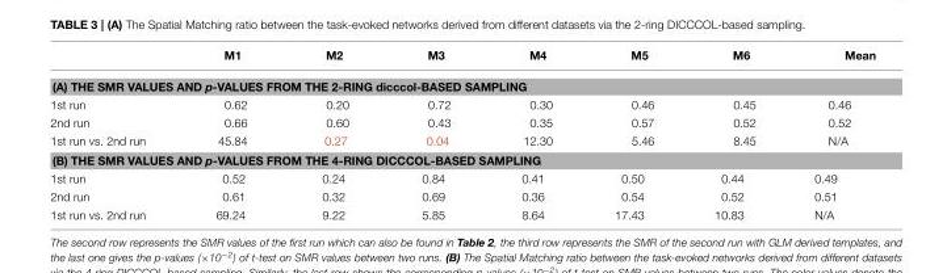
<table><thead><tr><td></td><td>M1</td><td>M2</td><td>M3</td><td>M4</td><td>M5</td><td>M6</td><td>Mean</td></tr></thead><tbody><tr><td colspan="8">(A) THE SMR VALUES AND p-VALUES FROM THE 2-RING dicccol-BASED SAMPLING</td></tr><tr><td>1st run</td><td>0.62</td><td>0.20</td><td>0.72</td><td>0.30</td><td>0.46</td><td>0.45</td><td>0.46</td></tr><tr><td>2nd run</td><td>0.66</td><td>0.60</td><td>0.43</td><td>0.35</td><td>0.57</td><td>0.52</td><td>0.52</td></tr><tr><td>1st run vs. 2nd run</td><td>45.84</td><td>0.27</td><td>0.04</td><td>12.30</td><td>5.46</td><td>8.45</td><td>N/A</td></tr><tr><td colspan="8">(B) THE SMR VALUES AND p-VALUES FROM THE 4-RING DICCCOL-BASED SAMPLING</td></tr><tr><td>1st run</td><td>0.52</td><td>0.24</td><td>0.84</td><td>0.41</td><td>0.50</td><td>0.44</td><td>0.49</td></tr><tr><td>2nd run</td><td>0.61</td><td>0.32</td><td>0.69</td><td>0.36</td><td>0.54</td><td>0.52</td><td>0.51</td></tr><tr><td>1st run vs. 2nd run</td><td>69.24</td><td>9.22</td><td>5.85</td><td>8.64</td><td>17.43</td><td>10.83</td><td>N/A</td></tr></tbody></table>